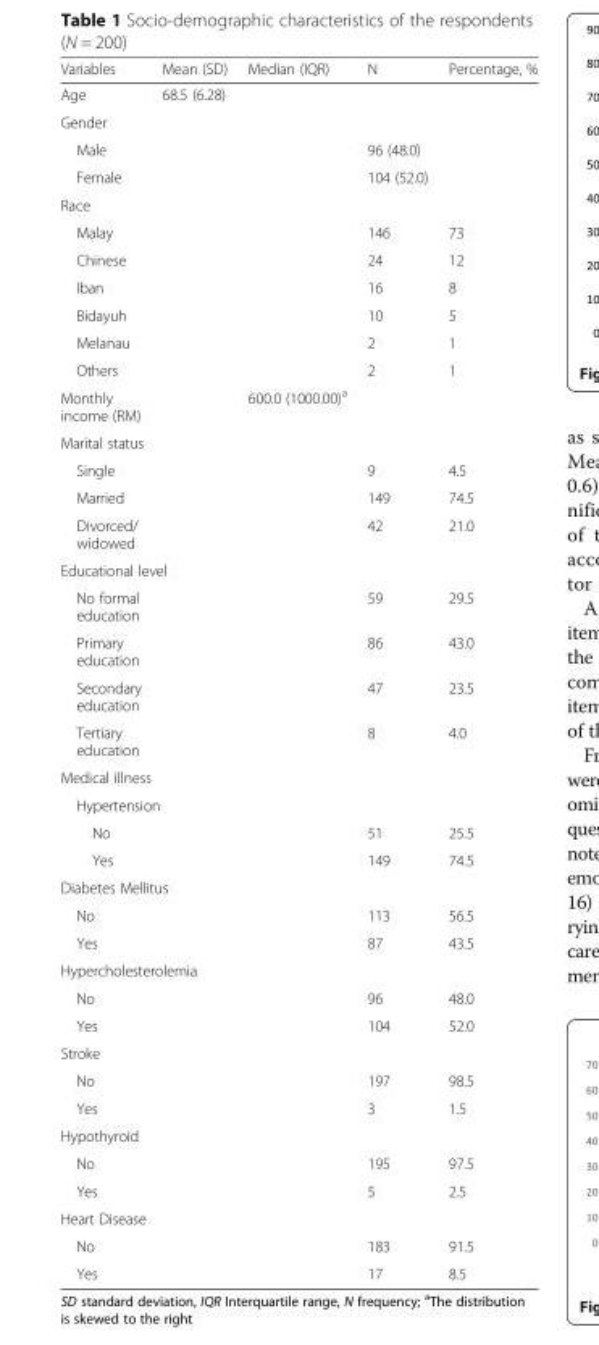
<table><thead><tr><td>Variables</td><td>Mean (SD)</td><td>Median (IQR)</td><td>N</td><td>Percentage, %</td></tr></thead><tbody><tr><td>Age</td><td>68.5 (6.28)</td><td></td><td></td><td></td></tr><tr><td colspan="5">Gender</td></tr><tr><td>Male</td><td></td><td></td><td>96 (48.0)</td><td></td></tr><tr><td>Female</td><td></td><td></td><td>104 (52.0)</td><td></td></tr><tr><td colspan="5">Race</td></tr><tr><td>Malay</td><td></td><td></td><td>146</td><td>73</td></tr><tr><td>Chinese</td><td></td><td></td><td>24</td><td>12</td></tr><tr><td>Iban</td><td></td><td></td><td>16</td><td>8</td></tr><tr><td>Bidayuh</td><td></td><td></td><td>10</td><td>5</td></tr><tr><td>Melanau</td><td></td><td></td><td>2</td><td>1</td></tr><tr><td>Others</td><td></td><td></td><td>2</td><td>1</td></tr><tr><td>Monthly income (RM)</td><td></td><td>600.0 (1000.00)<sup>a</sup></td><td></td><td></td></tr><tr><td colspan="5">Marital status</td></tr><tr><td>Single</td><td></td><td></td><td>9</td><td>4.5</td></tr><tr><td>Married</td><td></td><td></td><td>149</td><td>74.5</td></tr><tr><td>Divorced/ widowed</td><td></td><td></td><td>42</td><td>21.0</td></tr><tr><td colspan="5">Educational level</td></tr><tr><td>No formal education</td><td></td><td></td><td>59</td><td>29.5</td></tr><tr><td>Primary education</td><td></td><td></td><td>86</td><td>43.0</td></tr><tr><td>Secondary education</td><td></td><td></td><td>47</td><td>23.5</td></tr><tr><td>Tertiary education</td><td></td><td></td><td>8</td><td>4.0</td></tr><tr><td colspan="5">Medical illness</td></tr><tr><td colspan="5">Hypertension</td></tr><tr><td>No</td><td></td><td></td><td>51</td><td>25.5</td></tr><tr><td>Yes</td><td></td><td></td><td>149</td><td>74.5</td></tr><tr><td colspan="5">Diabetes Mellitus</td></tr><tr><td>No</td><td></td><td></td><td>113</td><td>56.5</td></tr><tr><td>Yes</td><td></td><td></td><td>87</td><td>43.5</td></tr><tr><td colspan="5">Hypercholesterolemia</td></tr><tr><td>No</td><td></td><td></td><td>96</td><td>48.0</td></tr><tr><td>Yes</td><td></td><td></td><td>104</td><td>52.0</td></tr><tr><td colspan="5">Stroke</td></tr><tr><td>No</td><td></td><td></td><td>197</td><td>98.5</td></tr><tr><td>Yes</td><td></td><td></td><td>3</td><td>1.5</td></tr><tr><td colspan="5">Hypothyroid</td></tr><tr><td>No</td><td></td><td></td><td>195</td><td>97.5</td></tr><tr><td>Yes</td><td></td><td></td><td>5</td><td>2.5</td></tr><tr><td colspan="5">Heart Disease</td></tr><tr><td>No</td><td></td><td></td><td>183</td><td>91.5</td></tr><tr><td>Yes</td><td></td><td></td><td>17</td><td>8.5</td></tr></tbody></table>